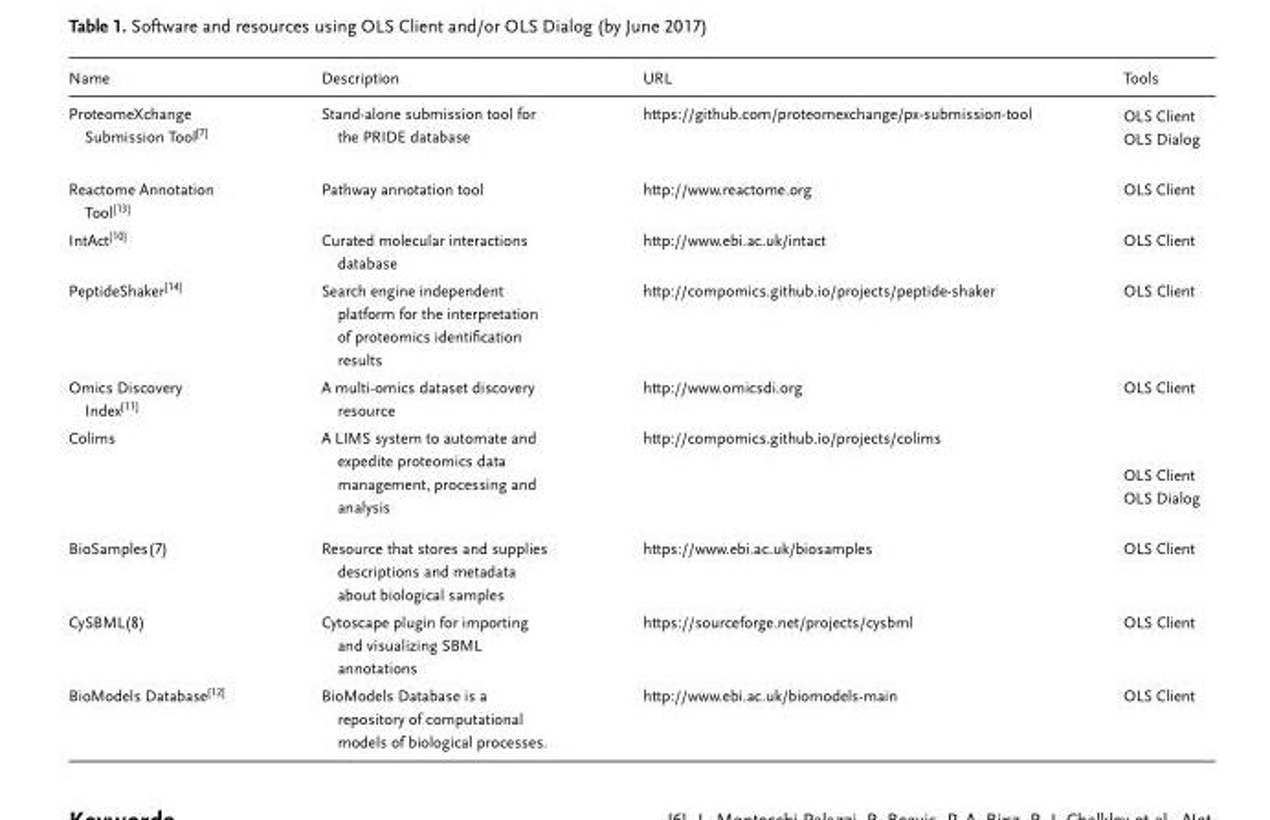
<table><thead><tr><td>Name</td><td>Description</td><td>URL</td><td>Tools</td></tr></thead><tbody><tr><td>ProteomeXchange Submission Tool[7]</td><td>Stand-alone submission tool for the PRIDE database</td><td>https://github.com/proteomexchange/px-submission-tool</td><td>OLS Client OLS Dialog</td></tr><tr><td>Reactome Annotation Tool[13]</td><td>Pathway annotation tool</td><td>http://www.reactome.org</td><td>OLS Client</td></tr><tr><td>IntAct[10]</td><td>Curated molecular interactions database</td><td>http://www.ebi.ac.uk/intact</td><td>OLS Client</td></tr><tr><td>PeptideShaker[14]</td><td>Search engine independent platform for the interpretation of proteomics identification results</td><td>http://compomics.github.io/projects/peptide-shaker</td><td>OLS Client</td></tr><tr><td>Omics Discovery Index[11]</td><td>A multi-omics dataset discovery resource</td><td>http://www.omicsdi.org</td><td>OLS Client</td></tr><tr><td>Colims</td><td>A LIMS system to automate and expedite proteomics data management, processing and analysis</td><td>http://compomics.github.io/projects/colims</td><td>OLS Client OLS Dialog</td></tr><tr><td>BioSamples(7)</td><td>Resource that stores and supplies descriptions and metadata about biological samples</td><td>https://www.ebi.ac.uk/biosamples</td><td>OLS Client</td></tr><tr><td>CySBML(8)</td><td>Cytoscape plugin for importing and visualizing SBML annotations</td><td>https://sourceforge.net/projects/cysbml</td><td>OLS Client</td></tr><tr><td>BioModels Database[12]</td><td>BioModels Database is a repository of computational models of biological processes.</td><td>http://www.ebi.ac.uk/biomodels-main</td><td>OLS Client</td></tr></tbody></table>